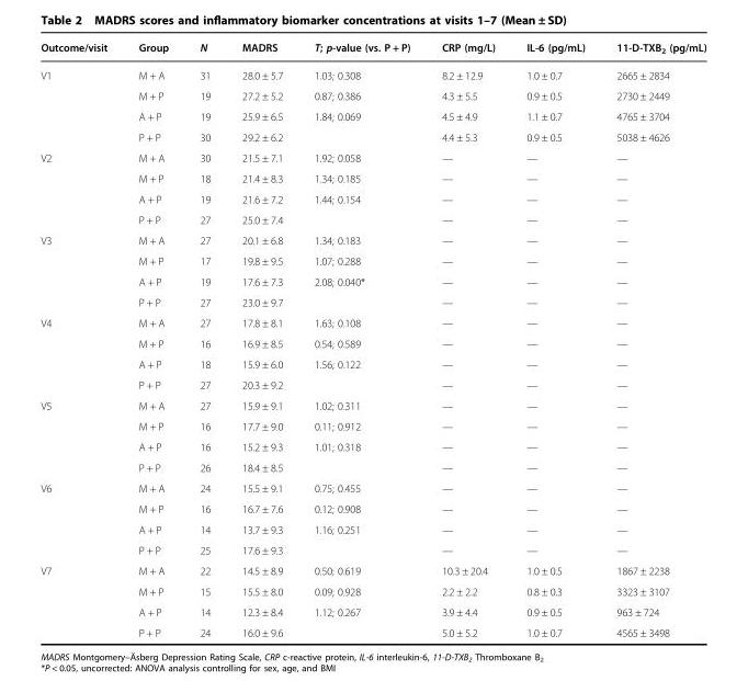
<table><thead><tr><td>Outcome/visit</td><td>Group</td><td>N</td><td>MADRS</td><td>T; p-value (vs. P + P)</td><td>CRP (mg/L)</td><td>IL-6 (pg/mL)</td><td>11-D-TXB<sub>2</sub> (pg/mL)</td></tr></thead><tbody><tr><td rowspan="4">V1</td><td>M + A</td><td>31</td><td>28.0 ± 5.7</td><td>1.03; 0.308</td><td>8.2 ± 12.9</td><td>1.0 ± 0.7</td><td>2665 ± 2834</td></tr><tr><td>M + P</td><td>19</td><td>27.2 ± 5.2</td><td>0.87; 0.386</td><td>4.3 ± 5.5</td><td>0.9 ± 0.5</td><td>2730 ± 2449</td></tr><tr><td>A + P</td><td>19</td><td>25.9 ± 6.5</td><td>1.84; 0.069</td><td>4.5 ± 4.9</td><td>1.1 ± 0.7</td><td>4765 ± 3704</td></tr><tr><td>P + P</td><td>30</td><td>29.2 ± 6.2</td><td></td><td>4.4 ± 5.3</td><td>0.9 ± 0.5</td><td>5038 ± 4626</td></tr><tr><td rowspan="4">V2</td><td>M + A</td><td>30</td><td>21.5 ± 7.1</td><td>1.92; 0.058</td><td>—</td><td>—</td><td>—</td></tr><tr><td>M + P</td><td>18</td><td>21.4 ± 8.3</td><td>1.34; 0.185</td><td>—</td><td>—</td><td>—</td></tr><tr><td>A + P</td><td>19</td><td>21.6 ± 7.2</td><td>1.44; 0.154</td><td>—</td><td>—</td><td>—</td></tr><tr><td>P + P</td><td>27</td><td>25.0 ± 7.4</td><td></td><td>—</td><td>—</td><td>—</td></tr><tr><td rowspan="4">V3</td><td>M + A</td><td>27</td><td>20.1 ± 6.8</td><td>1.34; 0.183</td><td>—</td><td>—</td><td>—</td></tr><tr><td>M + P</td><td>17</td><td>19.8 ± 9.5</td><td>1.07; 0.288</td><td>—</td><td>—</td><td>—</td></tr><tr><td>A + P</td><td>19</td><td>17.6 ± 7.3</td><td>2.08; 0.040*</td><td>—</td><td>—</td><td>—</td></tr><tr><td>P + P</td><td>27</td><td>23.0 ± 9.7</td><td></td><td>—</td><td>—</td><td>—</td></tr><tr><td rowspan="4">V4</td><td>M + A</td><td>27</td><td>17.8 ± 8.1</td><td>1.63; 0.108</td><td>—</td><td>—</td><td>—</td></tr><tr><td>M + P</td><td>16</td><td>16.9 ± 8.5</td><td>0.54; 0.589</td><td>—</td><td>—</td><td>—</td></tr><tr><td>A + P</td><td>18</td><td>15.9 ± 6.0</td><td>1.56; 0.122</td><td>—</td><td>—</td><td>—</td></tr><tr><td>P + P</td><td>27</td><td>20.3 ± 9.2</td><td></td><td>—</td><td>—</td><td>—</td></tr><tr><td rowspan="4">V5</td><td>M + A</td><td>27</td><td>15.9 ± 9.1</td><td>1.02; 0.311</td><td>—</td><td>—</td><td>—</td></tr><tr><td>M + P</td><td>16</td><td>17.7 ± 9.0</td><td>0.11; 0.912</td><td>—</td><td>—</td><td>—</td></tr><tr><td>A + P</td><td>16</td><td>15.2 ± 9.3</td><td>1.01; 0.318</td><td>—</td><td>—</td><td>—</td></tr><tr><td>P + P</td><td>26</td><td>18.4 ± 8.5</td><td></td><td>—</td><td>—</td><td>—</td></tr><tr><td rowspan="4">V6</td><td>M + A</td><td>24</td><td>15.5 ± 9.1</td><td>0.75; 0.455</td><td>—</td><td>—</td><td>—</td></tr><tr><td>M + P</td><td>16</td><td>16.7 ± 7.6</td><td>0.12; 0.908</td><td>—</td><td>—</td><td>—</td></tr><tr><td>A + P</td><td>14</td><td>13.7 ± 9.3</td><td>1.16; 0.251</td><td>—</td><td>—</td><td>—</td></tr><tr><td>P + P</td><td>25</td><td>17.6 ± 9.3</td><td></td><td>—</td><td>—</td><td>—</td></tr><tr><td rowspan="4">V7</td><td>M + A</td><td>22</td><td>14.5 ± 8.9</td><td>0.50; 0.619</td><td>10.3 ± 20.4</td><td>1.0 ± 0.5</td><td>1867 ± 2238</td></tr><tr><td>M + P</td><td>15</td><td>15.5 ± 8.0</td><td>0.09; 0.928</td><td>2.2 ± 2.2</td><td>0.8 ± 0.3</td><td>3323 ± 3107</td></tr><tr><td>A + P</td><td>14</td><td>12.3 ± 8.4</td><td>1.12; 0.267</td><td>3.9 ± 4.4</td><td>0.9 ± 0.5</td><td>963 ± 724</td></tr><tr><td>P + P</td><td>24</td><td>16.0 ± 9.6</td><td></td><td>5.0 ± 5.2</td><td>1.0 ± 0.7</td><td>4565 ± 3498</td></tr></tbody></table>